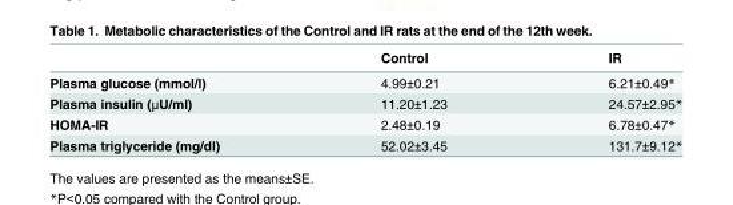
<table><thead><tr><td></td><td>Control</td><td>IR</td></tr></thead><tbody><tr><td>Plasma glucose (mmol/l)</td><td>4.99±0.21</td><td>6.21±0.49*</td></tr><tr><td>Plasma insulin (μU/ml)</td><td>11.20±1.23</td><td>24.57±2.95*</td></tr><tr><td>HOMA-IR</td><td>2.48±0.19</td><td>6.78±0.47*</td></tr><tr><td>Plasma triglyceride (mg/dl)</td><td>52.02±3.45</td><td>131.7±9.12*</td></tr></tbody></table>